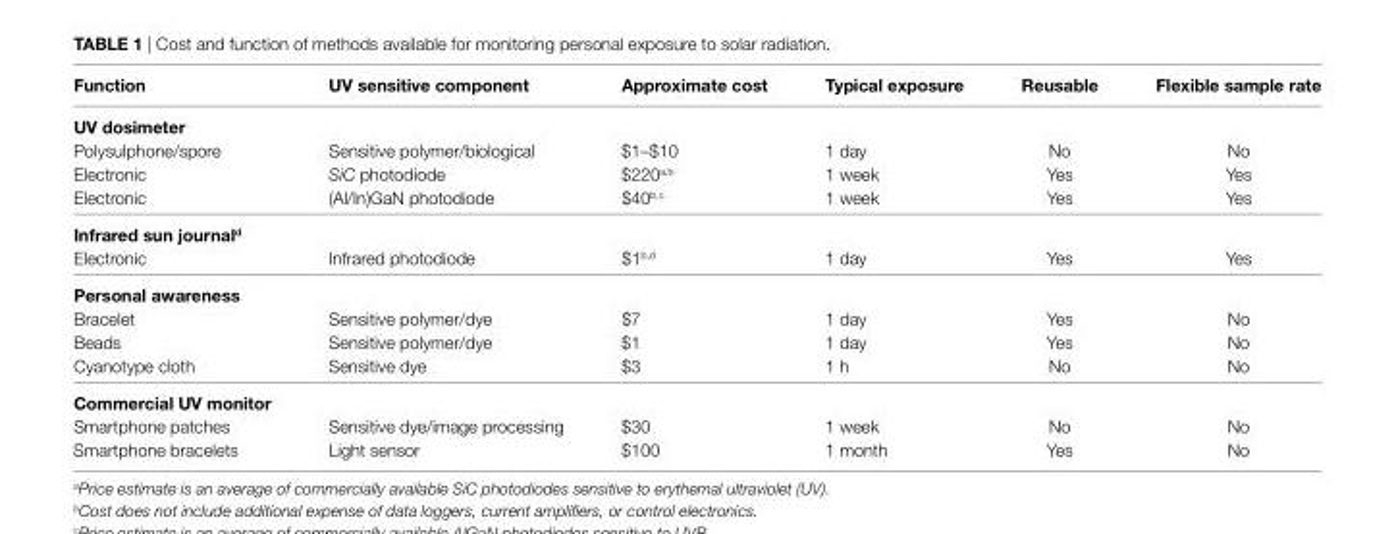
<table><thead><tr><td>Function</td><td>UV sensitive component</td><td>approximate cost</td><td>Typical exposure</td><td>reusable</td><td>Flexible sample rate</td></tr></thead><tbody><tr><td colspan="6">UV dosimeter</td></tr><tr><td>Polysulphone/spore</td><td>Sensitive polymer/biological</td><td>$1–$10</td><td>1 day</td><td>No</td><td>No</td></tr><tr><td>Electronic</td><td>SiC photodiode</td><td>$220<sup>a,b</sup></td><td>1 week</td><td>Yes</td><td>Yes</td></tr><tr><td>Electronic</td><td>(Al/In)GaN photodiode</td><td>$40<sup>b,c</sup></td><td>1 week</td><td>Yes</td><td>Yes</td></tr><tr><td colspan="6">infrared sun journal<sup>d</sup></td></tr><tr><td>Electronic</td><td>Infrared photodiode</td><td>$1<sup>b,d</sup></td><td>1 day</td><td>Yes</td><td>Yes</td></tr><tr><td colspan="6">Personal awareness</td></tr><tr><td>Bracelet</td><td>Sensitive polymer/dye</td><td>$7</td><td>1 day</td><td>Yes</td><td>No</td></tr><tr><td>Beads</td><td>Sensitive polymer/dye</td><td>$1</td><td>1 day</td><td>Yes</td><td>No</td></tr><tr><td>Cyanotype cloth</td><td>Sensitive dye</td><td>$3</td><td>1 h</td><td>No</td><td>No</td></tr><tr><td colspan="6">commercial UV monitor</td></tr><tr><td>Smartphone patches</td><td>Sensitive dye/image processing</td><td>$30</td><td>1 week</td><td>No</td><td>No</td></tr><tr><td>Smartphone bracelets</td><td>Light sensor</td><td>$100</td><td>1 month</td><td>Yes</td><td>No</td></tr></tbody></table>